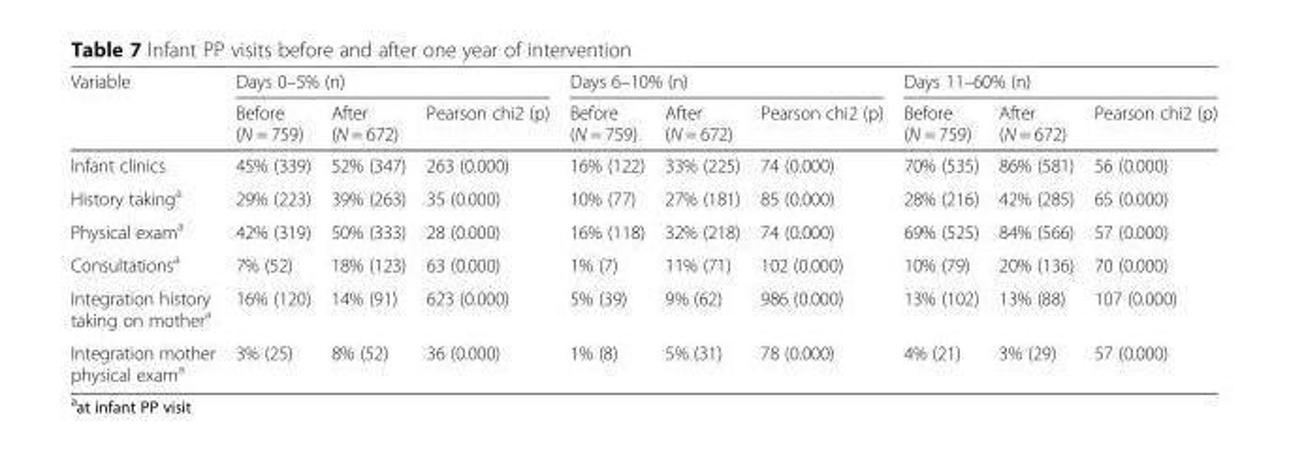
<table><thead><tr><td rowspan="2">Variable</td><td colspan="3">Days 0–5% (n)</td><td colspan="3">Days 6–10% (n)</td><td colspan="3">Days 11–60% (n)</td></tr><tr><td>Before (N = 759)</td><td>After (N = 672)</td><td>Pearson chi2 (p)</td><td>Before (N = 759)</td><td>After (N = 672)</td><td>Pearson chi2 (p)</td><td>Before (N = 759)</td><td>After (N = 672)</td><td>Pearson chi2 (p)</td></tr></thead><tbody><tr><td>Infant clinics</td><td>45% (339)</td><td>52% (347)</td><td>263 (0.000)</td><td>16% (122)</td><td>33% (225)</td><td>74 (0.000)</td><td>70% (535)</td><td>86% (581)</td><td>56 (0.000)</td></tr><tr><td>History taking<sup>a</sup></td><td>29% (223)</td><td>39% (263)</td><td>35 (0.000)</td><td>10% (77)</td><td>27% (181)</td><td>85 (0.000)</td><td>28% (216)</td><td>42% (285)</td><td>65 (0.000)</td></tr><tr><td>Physical exam<sup>a</sup></td><td>42% (319)</td><td>50% (333)</td><td>28 (0.000)</td><td>16% (118)</td><td>32% (218)</td><td>74 (0.000)</td><td>69% (525)</td><td>84% (566)</td><td>57 (0.000)</td></tr><tr><td>Consultations<sup>a</sup></td><td>7% (52)</td><td>18% (123)</td><td>63 (0.000)</td><td>1% (7)</td><td>11% (71)</td><td>102 (0.000)</td><td>10% (79)</td><td>20% (136)</td><td>70 (0.000)</td></tr><tr><td>Integration history taking on mother<sup>a</sup></td><td>16% (120)</td><td>14% (91)</td><td>623 (0.000)</td><td>5% (39)</td><td>9% (62)</td><td>986 (0.000)</td><td>13% (102)</td><td>13% (88)</td><td>107 (0.000)</td></tr><tr><td>Integration mother physical exam<sup>a</sup></td><td>3% (25)</td><td>8% (52)</td><td>36 (0.000)</td><td>1% (8)</td><td>5% (31)</td><td>78 (0.000)</td><td>4% (21)</td><td>3% (29)</td><td>57 (0.000)</td></tr></tbody></table>